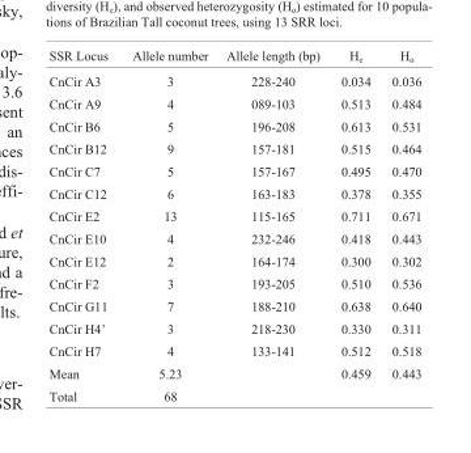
<table><thead><tr><td>SSR Locus</td><td>Allele number</td><td>Allele length (bp)</td><td>H<sub>e</sub></td><td>H<sub>o</sub></td></tr></thead><tbody><tr><td>CnCir A3</td><td>3</td><td>228-240</td><td>0.034</td><td>0.036</td></tr><tr><td>CnCir A9</td><td>4</td><td>089-103</td><td>0.513</td><td>0.484</td></tr><tr><td>CnCir B6</td><td>5</td><td>196-208</td><td>0.613</td><td>0.531</td></tr><tr><td>CnCir B12</td><td>9</td><td>157-181</td><td>0.515</td><td>0.464</td></tr><tr><td>CnCir C7</td><td>5</td><td>157-167</td><td>0.495</td><td>0.470</td></tr><tr><td>CnCir C12</td><td>6</td><td>163-183</td><td>0.378</td><td>0.355</td></tr><tr><td>CnCir E2</td><td>13</td><td>115-165</td><td>0.711</td><td>0.671</td></tr><tr><td>CnCir E10</td><td>4</td><td>232-246</td><td>0.418</td><td>0.443</td></tr><tr><td>CnCir E12</td><td>2</td><td>164-174</td><td>0.300</td><td>0.302</td></tr><tr><td>CnCir F2</td><td>3</td><td>193-205</td><td>0.510</td><td>0.536</td></tr><tr><td>CnCir G11</td><td>7</td><td>188-210</td><td>0.638</td><td>0.640</td></tr><tr><td>CnCir H4’</td><td>3</td><td>218-230</td><td>0.330</td><td>0.311</td></tr><tr><td>CnCir H7</td><td>4</td><td>133-141</td><td>0.512</td><td>0.518</td></tr><tr><td>Mean</td><td>5.23</td><td></td><td>0.459</td><td>0.443</td></tr><tr><td>Total</td><td>68</td><td></td><td></td><td></td></tr></tbody></table>